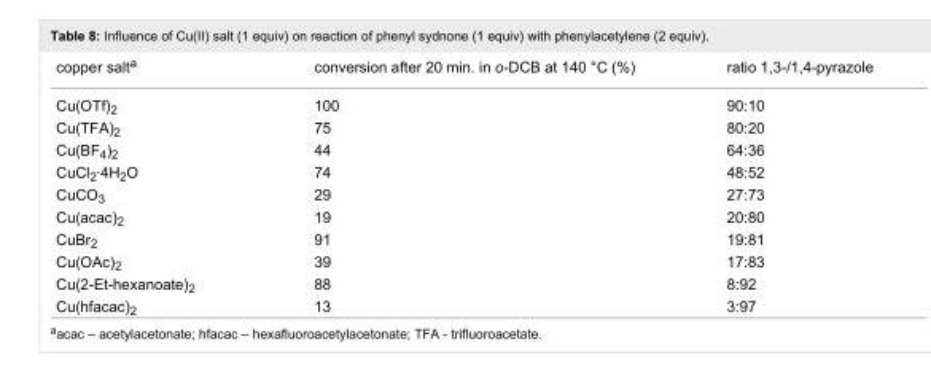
<table><tbody><tr><td>copper salt<sup>a</sup></td><td>conversion after 20 min. in o-DCB at 140 °C (%)</td><td>ratio 1,3-/1,4-pyrazole</td></tr><tr><td>Cu(OTf)<sub>2</sub></td><td>100</td><td>90:10</td></tr><tr><td>Cu(TFA)<sub>2</sub></td><td>75</td><td>80:20</td></tr><tr><td>Cu(BF<sub>4</sub>)<sub>2</sub></td><td>44</td><td>64:36</td></tr><tr><td>CuCl<sub>2</sub>·4H<sub>2</sub>O</td><td>74</td><td>48:52</td></tr><tr><td>CuCO<sub>3</sub></td><td>29</td><td>27:73</td></tr><tr><td>Cu(acac)<sub>2</sub></td><td>19</td><td>20:80</td></tr><tr><td>CuBr<sub>2</sub></td><td>91</td><td>19:81</td></tr><tr><td>Cu(OAc)<sub>2</sub></td><td>39</td><td>17:83</td></tr><tr><td>Cu(2-Et-hexanoate)<sub>2</sub></td><td>88</td><td>8:92</td></tr><tr><td>Cu(hfacac)<sub>2</sub></td><td>13</td><td>3:97</td></tr></tbody></table>